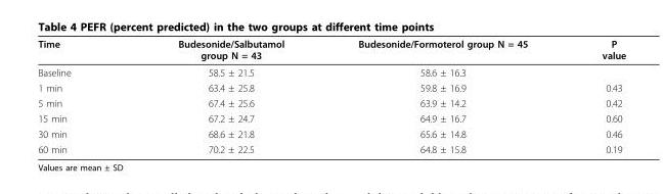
<table><thead><tr><td>Time</td><td>Budesonide/Salbutamol group N = 43</td><td>Budesonide/Formoterol group N = 45</td><td>P value</td></tr></thead><tbody><tr><td>Baseline</td><td>58.5 ± 21.5</td><td>58.6 ± 16.3</td><td></td></tr><tr><td>1 min</td><td>63.4 ± 25.8</td><td>59.8 ± 16.9</td><td>0.43</td></tr><tr><td>5 min</td><td>67.4 ± 25.6</td><td>63.9 ± 14.2</td><td>0.42</td></tr><tr><td>15 min</td><td>67.2 ± 24.7</td><td>64.9 ± 16.7</td><td>0.60</td></tr><tr><td>30 min</td><td>68.6 ± 21.8</td><td>65.6 ± 14.8</td><td>0.46</td></tr><tr><td>60 min</td><td>70.2 ± 22.5</td><td>64.8 ± 15.8</td><td>0.19</td></tr></tbody></table>